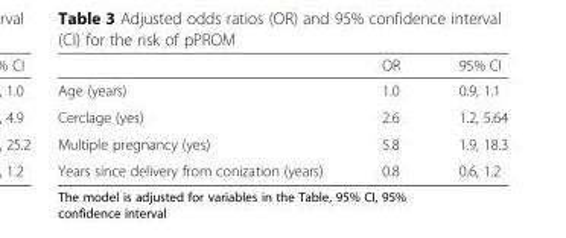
<table><thead><tr><td></td><td>OR</td><td>95% CI</td></tr></thead><tbody><tr><td>Age (years)</td><td>1.0</td><td>0.9, 1.1</td></tr><tr><td>Cerclage (yes)</td><td>2.6</td><td>1.2, 5.64</td></tr><tr><td>Multiple pregnancy (yes)</td><td>5.8</td><td>1.9, 18.3</td></tr><tr><td>Years since delivery from conization (years)</td><td>0.8</td><td>0.6, 1.2</td></tr></tbody></table>